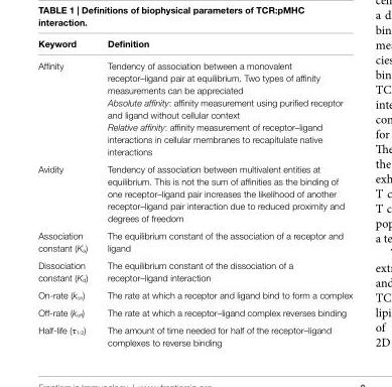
<table><thead><tr><td>Keyword</td><td>Definition</td></tr></thead><tbody><tr><td rowspan="3">Affinity</td><td>Tendency of association between a monovalent receptor–ligand pair at equilibrium. Two types of affinity measurements can be appreciated</td></tr><tr><td>Absolute affinity: affinity measurement using purified receptor and ligand without cellular context</td></tr><tr><td>Relative affinity: affinity measurement of receptor–ligand interactions in cellular membranes to recapitulate native interactions</td></tr><tr><td>Avidity</td><td>Tendency of association between multivalent entities at equilibrium. This is not the sum of affinities as the binding of one receptor–ligand pair increases the likelihood of another receptor–ligand pair interaction due to reduced proximity and degrees of freedom</td></tr><tr><td>Association constant (K<sub>a</sub>)</td><td>The equilibrium constant of the association of a receptor and ligand</td></tr><tr><td>Dissociation constant (K<sub>d</sub>)</td><td>The equilibrium constant of the dissociation of a receptor–ligand interaction</td></tr><tr><td>On-rate (k<sub>on</sub>)</td><td>The rate at which a receptor and ligand bind to form a complex</td></tr><tr><td>Off-rate (k<sub>off</sub>)</td><td>The rate at which a receptor–ligand complex reverses binding</td></tr><tr><td>Half-life (τ<sub>1/2</sub>)</td><td>The amount of time needed for half of the receptor–ligand complexes to reverse binding</td></tr></tbody></table>